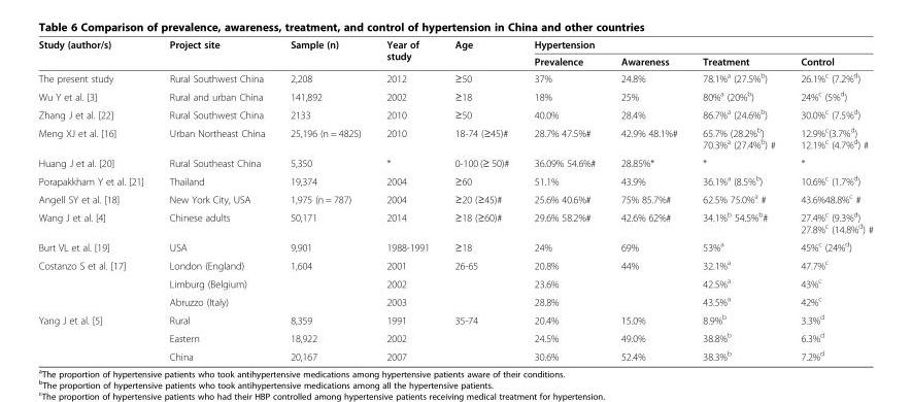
<table><thead><tr><td rowspan="2">Study (author/s)</td><td rowspan="2">Project site</td><td rowspan="2">Sample (n)</td><td rowspan="2">Year of study</td><td rowspan="2">Age</td><td colspan="4">Hypertension</td></tr><tr><td>Prevalence</td><td>Awareness</td><td>Treatment</td><td>Control</td></tr></thead><tbody><tr><td>The present study</td><td>Rural Southwest China</td><td>2,208</td><td>2012</td><td>≥50</td><td>37%</td><td>24.8%</td><td>78.1%<sup>a</sup> (27.5%<sup>b</sup>)</td><td>26.1%<sup>c</sup> (7.2%<sup>d</sup>)</td></tr><tr><td>Wu Y et al. [3]</td><td>Rural and urban China</td><td>141,892</td><td>2002</td><td>≥18</td><td>18%</td><td>25%</td><td>80%<sup>a</sup> (20%<sup>b</sup>)</td><td>24%<sup>c</sup> (5%<sup>d</sup>)</td></tr><tr><td>Zhang J et al. [22]</td><td>Rural Southwest China</td><td>2133</td><td>2010</td><td>≥50</td><td>40.0%</td><td>28.4%</td><td>86.7%<sup>a</sup> (24.6%<sup>b</sup>)</td><td>30.0%<sup>c</sup> (7.5%<sup>d</sup>)</td></tr><tr><td>Meng XJ et al. [16]</td><td>Urban Northeast China</td><td>25,196 (n = 4825)</td><td>2010</td><td>18-74 (≥45)#</td><td>28.7% 47.5%#</td><td>42.9% 48.1%#</td><td>65.7% (28.2%<sup>b</sup>) 70.3%<sup>a</sup> (27.4%<sup>b</sup>) #</td><td>12.9%<sup>c</sup>(3.7%<sup>d</sup>) 12.1%<sup>c</sup> (4.7%<sup>d</sup>) #</td></tr><tr><td>Huang J et al. [20]</td><td>Rural Southeast China</td><td>5,350</td><td>*</td><td>0-100 (≥ 50)#</td><td>36.09% 54.6%#</td><td>28.85%*</td><td>*</td><td>*</td></tr><tr><td>Porapakkham Y et al. [21]</td><td>Thailand</td><td>19,374</td><td>2004</td><td>≥60</td><td>51.1%</td><td>43.9%</td><td>36.1%<sup>a</sup> (8.5%<sup>b</sup>)</td><td>10.6%<sup>c</sup> (1.7%<sup>d</sup>)</td></tr><tr><td>Angell SY et al. [18]</td><td>New York City, USA</td><td>1,975 (n = 787)</td><td>2004</td><td>≥20 (≥45)#</td><td>25.6% 40.6%#</td><td>75% 85.7%#</td><td>62.5% 75.0%<sup>a</sup> #</td><td>43.6%48.8%<sup>c</sup> #</td></tr><tr><td>Wang J et al. [4]</td><td>Chinese adults</td><td>50,171</td><td>2014</td><td>≥18 (≥60)#</td><td>29.6% 58.2%#</td><td>42.6% 62%#</td><td>34.1%<sup>b</sup> 54.5%<sup>b</sup>#</td><td>27.4%<sup>c</sup> (9.3%<sup>d</sup>) 27.8%<sup>c</sup> (14.8%<sup>d</sup>) #</td></tr><tr><td>Burt VL et al. [19]</td><td>USA</td><td>9,901</td><td>1988-1991</td><td>≥18</td><td>24%</td><td>69%</td><td>53%<sup>a</sup></td><td>45%<sup>c</sup> (24%<sup>d</sup>)</td></tr><tr><td rowspan="3">Costanzo S et al. [17]</td><td>London (England)</td><td>1,604</td><td>2001</td><td>26-65</td><td>20.8%</td><td>44%</td><td>32.1%<sup>a</sup></td><td>47.7%<sup>c</sup></td></tr><tr><td>Limburg (Belgium)</td><td></td><td>2002</td><td></td><td>23.6%</td><td></td><td>42.5%<sup>a</sup></td><td>43%<sup>c</sup></td></tr><tr><td>Abruzzo (Italy)</td><td></td><td>2003</td><td></td><td>28.8%</td><td></td><td>43.5%<sup>a</sup></td><td>42%<sup>c</sup></td></tr><tr><td rowspan="3">Yang J et al. [5]</td><td>Rural</td><td>8,359</td><td>1991</td><td>35-74</td><td>20.4%</td><td>15.0%</td><td>8.9%<sup>b</sup></td><td>3.3%<sup>d</sup></td></tr><tr><td>Eastern</td><td>18,922</td><td>2002</td><td></td><td>24.5%</td><td>49.0%</td><td>38.8%<sup>b</sup></td><td>6.3%<sup>d</sup></td></tr><tr><td>China</td><td>20,167</td><td>2007</td><td></td><td>30.6%</td><td>52.4%</td><td>38.3%<sup>b</sup></td><td>7.2%<sup>d</sup></td></tr></tbody></table>